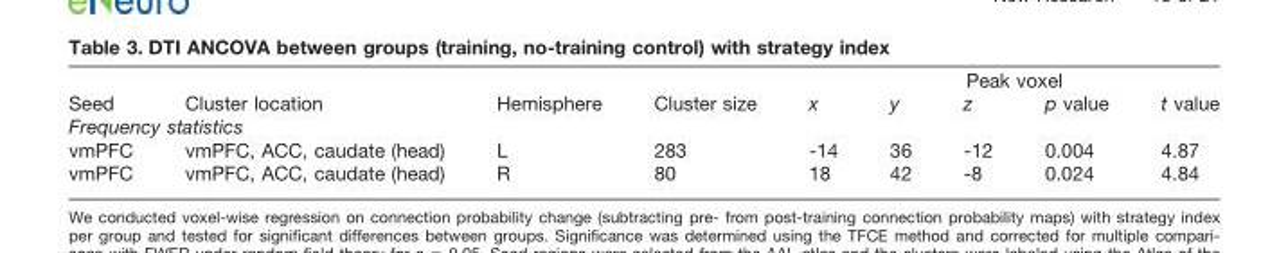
<table><thead><tr><td rowspan="2">Seed</td><td rowspan="2">Cluster location</td><td rowspan="2">Hemisphere</td><td rowspan="2">Cluster size</td><td colspan="5">Peak voxel</td></tr><tr><td>x</td><td>y</td><td>z</td><td>p value</td><td>t value</td></tr></thead><tbody><tr><td colspan="9">Frequency statistics</td></tr><tr><td>vmPFC</td><td>vmPFC, ACC, caudate (head)</td><td>L</td><td>283</td><td>-14</td><td>36</td><td>-12</td><td>0.004</td><td>4.87</td></tr><tr><td>vmPFC</td><td>vmPFC, ACC, caudate (head)</td><td>R</td><td>80</td><td>18</td><td>42</td><td>-8</td><td>0.024</td><td>4.84</td></tr></tbody></table>